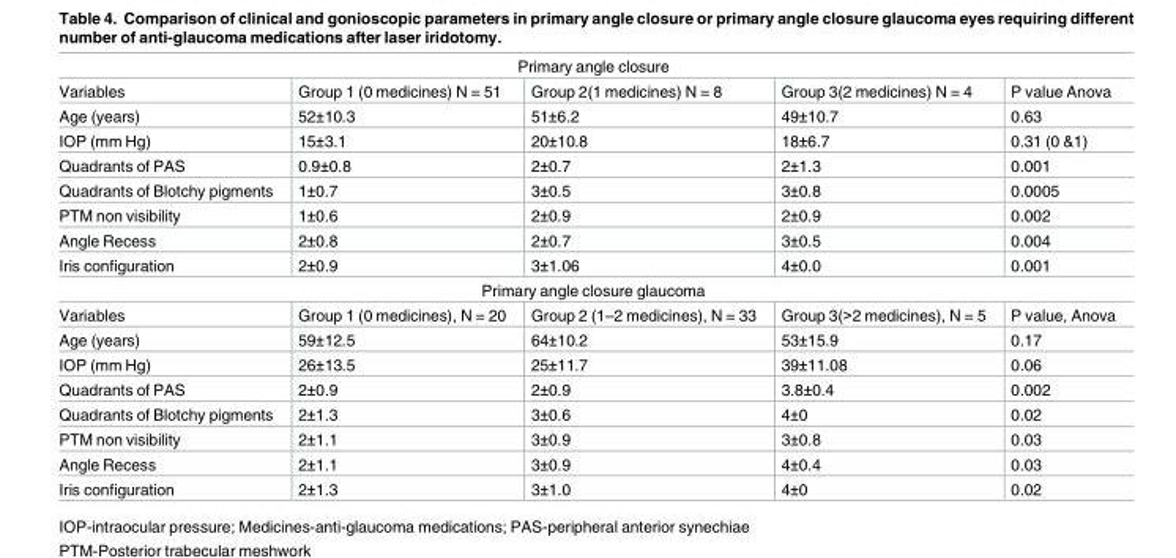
<table><tbody><tr><td colspan="5">Primary angle closure</td></tr><tr><td>Variables</td><td>Group 1 (0 medicines) N = 51</td><td>Group 2(1 medicines) N = 8</td><td>Group 3(2 medicines) N = 4</td><td>P value Anova</td></tr><tr><td>Age (years)</td><td>52±10.3</td><td>51±6.2</td><td>49±10.7</td><td>0.63</td></tr><tr><td>IOP (mm Hg)</td><td>15±3.1</td><td>20±10.8</td><td>18±6.7</td><td>0.31 (0 &amp;1)</td></tr><tr><td>Quadrants of PAS</td><td>0.9±0.8</td><td>2±0.7</td><td>2±1.3</td><td>0.001</td></tr><tr><td>Quadrants of Blotchy pigments</td><td>1±0.7</td><td>3±0.5</td><td>3±0.8</td><td>0.0005</td></tr><tr><td>PTM non visibility</td><td>1±0.6</td><td>2±0.9</td><td>2±0.9</td><td>0.002</td></tr><tr><td>Angle Recess</td><td>2±0.8</td><td>2±0.7</td><td>3±0.5</td><td>0.004</td></tr><tr><td>Iris configuration</td><td>2±0.9</td><td>3±1.06</td><td>4±0.0</td><td>0.001</td></tr><tr><td colspan="5">Primary angle closure glaucoma</td></tr><tr><td>Variables</td><td>Group 1 (0 medicines), N = 20</td><td>Group 2 (1–2 medicines), N = 33</td><td>Group 3(&gt;2 medicines), N = 5</td><td>P value, Anova</td></tr><tr><td>Age (years)</td><td>59±12.5</td><td>64±10.2</td><td>53±15.9</td><td>0.17</td></tr><tr><td>IOP (mm Hg)</td><td>26±13.5</td><td>25±11.7</td><td>39±11.08</td><td>0.06</td></tr><tr><td>Quadrants of PAS</td><td>2±0.9</td><td>2±0.9</td><td>3.8±0.4</td><td>0.002</td></tr><tr><td>Quadrants of Blotchy pigments</td><td>2±1.3</td><td>3±0.6</td><td>4±0</td><td>0.02</td></tr><tr><td>PTM non visibility</td><td>2±1.1</td><td>3±0.9</td><td>3±0.8</td><td>0.03</td></tr><tr><td>Angle Recess</td><td>2±1.1</td><td>3±0.9</td><td>4±0.4</td><td>0.03</td></tr><tr><td>Iris configuration</td><td>2±1.3</td><td>3±1.0</td><td>4±0</td><td>0.02</td></tr></tbody></table>